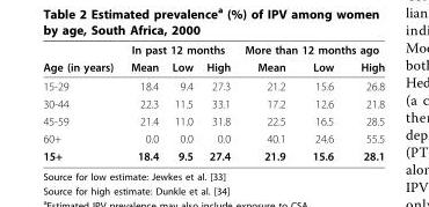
<table><thead><tr><td rowspan="2">Age (in years)</td><td colspan="3">In past 12 months</td><td colspan="3">More than 12 months ago</td></tr><tr><td>Mean</td><td>Low</td><td>High</td><td>Mean</td><td>Low</td><td>High</td></tr></thead><tbody><tr><td>15-29</td><td>18.4</td><td>9.4</td><td>27.3</td><td>21.2</td><td>15.6</td><td>26.8</td></tr><tr><td>30-44</td><td>22.3</td><td>11.5</td><td>33.1</td><td>17.2</td><td>12.6</td><td>21.8</td></tr><tr><td>45-59</td><td>21.4</td><td>11.0</td><td>31.8</td><td>22.5</td><td>16.5</td><td>28.5</td></tr><tr><td>60+</td><td>0.0</td><td>0.0</td><td>0.0</td><td>40.1</td><td>24.6</td><td>55.5</td></tr><tr><td>15+</td><td>18.4</td><td>9.5</td><td>27.4</td><td>21.9</td><td>15.6</td><td>28.1</td></tr></tbody></table>